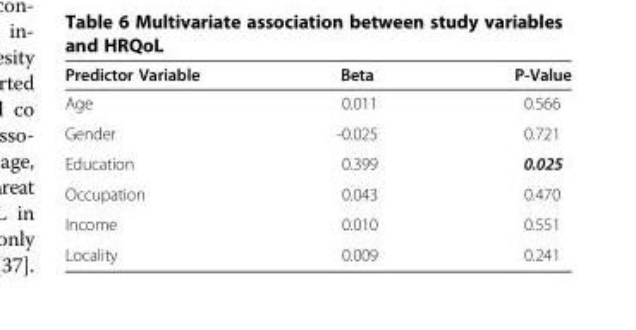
<table><thead><tr><td>Predictor Variable</td><td>Beta</td><td>P-Value</td></tr></thead><tbody><tr><td>Age</td><td>0.011</td><td>0.566</td></tr><tr><td>Gender</td><td>-0.025</td><td>0.721</td></tr><tr><td>Education</td><td>0.399</td><td>0.025</td></tr><tr><td>Occupation</td><td>0.043</td><td>0.470</td></tr><tr><td>Income</td><td>0.010</td><td>0.551</td></tr><tr><td>Locality</td><td>0.009</td><td>0.241</td></tr></tbody></table>